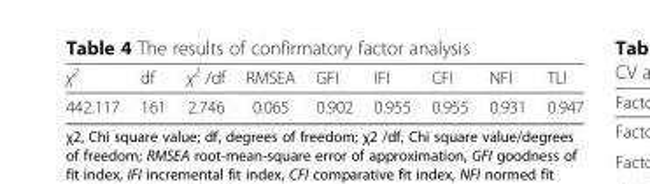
<table><thead><tr><td>χ<sup>2</sup></td><td>df</td><td>χ<sup>2</sup> /df</td><td>RMSEA</td><td>GFI</td><td>IFI</td><td>CFI</td><td>NFI</td><td>TLI</td></tr></thead><tbody><tr><td>442.117</td><td>161</td><td>2.746</td><td>0.065</td><td>0.902</td><td>0.955</td><td>0.955</td><td>0.931</td><td>0.947</td></tr></tbody></table>